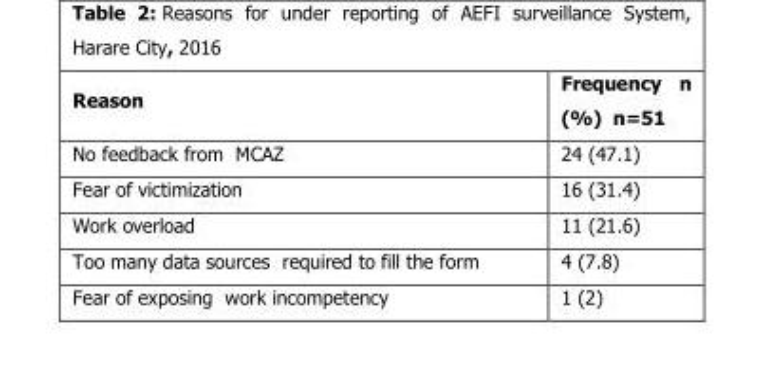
<table><thead><tr><td>Reason</td><td>Frequency n (%) n=51</td></tr></thead><tbody><tr><td>No feedback from MCAZ</td><td>24 (47.1)</td></tr><tr><td>Fear of victimization</td><td>16 (31.4)</td></tr><tr><td>Work overload</td><td>11 (21.6)</td></tr><tr><td>Too many data sources required to fill the form</td><td>4 (7.8)</td></tr><tr><td>Fear of exposing work incompetency</td><td>1 (2)</td></tr></tbody></table>